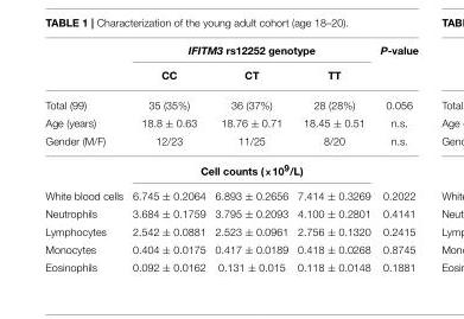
<table><thead><tr><td rowspan="2"></td><td colspan="3">IFITM3 rs12252 genotype</td><td rowspan="2">P-value</td></tr><tr><td>CC</td><td>CT</td><td>TT</td></tr></thead><tbody><tr><td>Total (99)</td><td>35 (35%)</td><td>36 (37%)</td><td>28 (28%)</td><td>0.056</td></tr><tr><td>Age (years)</td><td>18.8 ± 0.63</td><td>18.76 ± 0.71</td><td>18.45 ± 0.51</td><td>n.s.</td></tr><tr><td rowspan="2">Gender (M/F)</td><td>12/23</td><td>11/25</td><td>8/20</td><td>n.s.</td></tr><tr><td colspan="3">Cell counts (×10<sup>9</sup>/L)</td><td></td></tr><tr><td>White blood cells</td><td>6.745 ± 0.2064</td><td>6.893 ± 0.2656</td><td>7.414 ± 0.3269</td><td>0.2022</td></tr><tr><td>Neutrophils</td><td>3.684 ± 0.1759</td><td>3.795 ± 0.2093</td><td>4.100 ± 0.2801</td><td>0.4141</td></tr><tr><td>Lymphocytes</td><td>2.542 ± 0.0881</td><td>2.523 ± 0.0961</td><td>2.756 ± 0.1320</td><td>0.2415</td></tr><tr><td>Monocytes</td><td>0.404 ± 0.0175</td><td>0.417 ± 0.0189</td><td>0.418 ± 0.0268</td><td>0.8745</td></tr><tr><td>Eosinophils</td><td>0.092 ± 0.0162</td><td>0.131 ± 0.015</td><td>0.118 ± 0.0148</td><td>0.1881</td></tr></tbody></table>